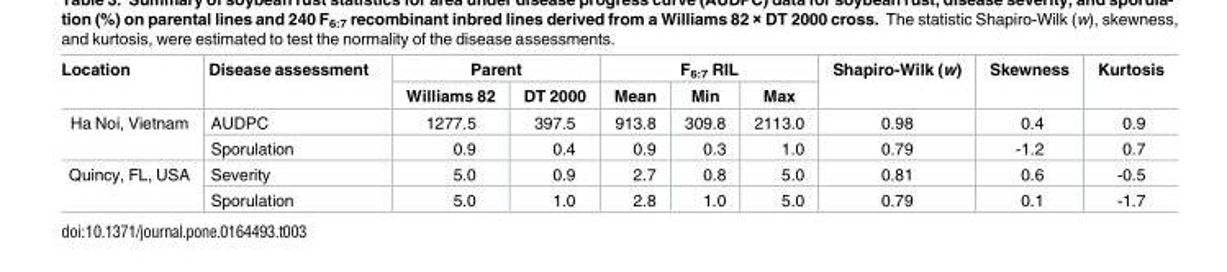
<table><thead><tr><td rowspan="2">Location</td><td rowspan="2">Disease assessment</td><td colspan="2">Parent</td><td colspan="3">F<sub>6:7</sub> RIL</td><td rowspan="2">Shapiro-Wilk (w)</td><td rowspan="2">Skewness</td><td rowspan="2">Kurtosis</td></tr><tr><td>Williams 82</td><td>DT 2000</td><td>Mean</td><td>Min</td><td>Max</td></tr></thead><tbody><tr><td rowspan="2">Ha Noi, Vietnam</td><td>AUDPC</td><td>1277.5</td><td>397.5</td><td>913.8</td><td>309.8</td><td>2113.0</td><td>0.98</td><td>0.4</td><td>0.9</td></tr><tr><td>Sporulation</td><td>0.9</td><td>0.4</td><td>0.9</td><td>0.3</td><td>1.0</td><td>0.79</td><td>-1.2</td><td>0.7</td></tr><tr><td rowspan="2">Quincy, FL, USA</td><td>Severity</td><td>5.0</td><td>0.9</td><td>2.7</td><td>0.8</td><td>5.0</td><td>0.81</td><td>0.6</td><td>-0.5</td></tr><tr><td>Sporulation</td><td>5.0</td><td>1.0</td><td>2.8</td><td>1.0</td><td>5.0</td><td>0.79</td><td>0.1</td><td>-1.7</td></tr></tbody></table>